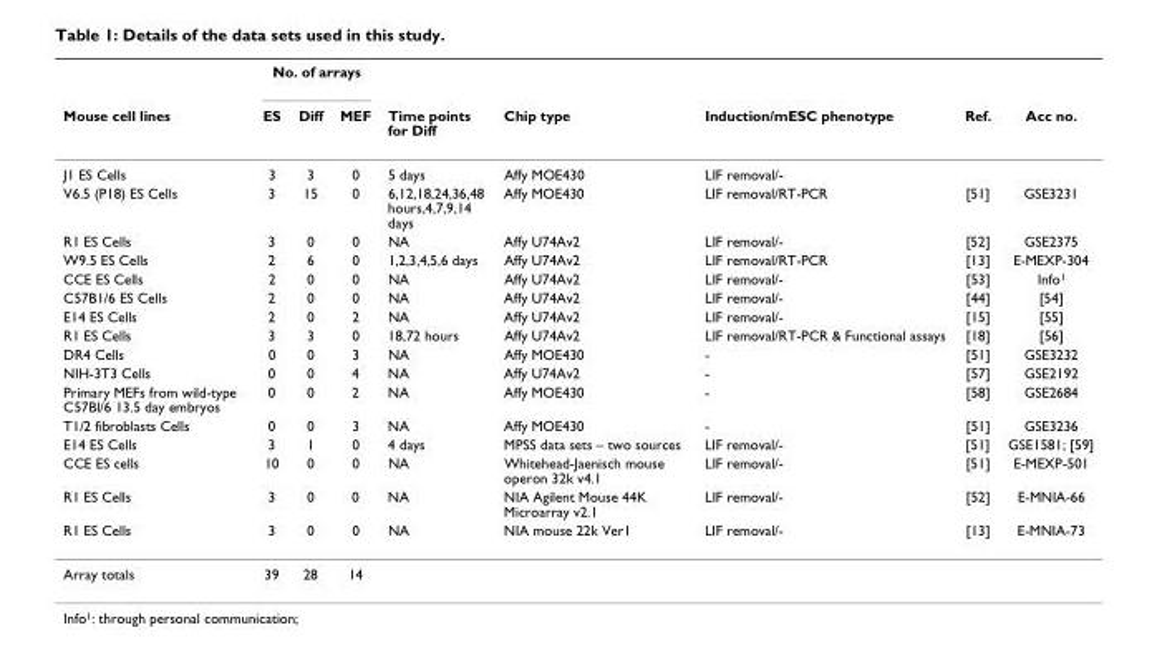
<table><thead><tr><td rowspan="2">Mouse cell lines</td><td colspan="3">No. of arrays</td><td rowspan="2">Time points for Diff</td><td rowspan="2">Chip type</td><td rowspan="2">Induction/mESC phenotype</td><td rowspan="2">Ref.</td><td rowspan="2">Acc no.</td></tr><tr><td>ES</td><td>Diff</td><td>MEF</td></tr></thead><tbody><tr><td>J1 ES Cells</td><td>3</td><td>3</td><td>0</td><td>5 days</td><td>Affy MOE430</td><td>LIF removal/-</td><td></td><td></td></tr><tr><td>V6.5 (P18) ES Cells</td><td>3</td><td>15</td><td>0</td><td>6,12,18,24,36,48 hours,4,7,9,14 days</td><td>Affy MOE430</td><td>LIF removal/RT-PCR</td><td>[51]</td><td>GSE3231</td></tr><tr><td>R1 ES Cells</td><td>3</td><td>0</td><td>0</td><td>NA</td><td>Affy U74Av2</td><td>LIF removal/-</td><td>[52]</td><td>GSE2375</td></tr><tr><td>W9.5 ES Cells</td><td>2</td><td>6</td><td>0</td><td>1,2,3,4,5,6 days</td><td>Affy U74Av2</td><td>LIF removal/RT-PCR</td><td>[13]</td><td>E-MEXP-304</td></tr><tr><td>CCE ES Cells</td><td>2</td><td>0</td><td>0</td><td>NA</td><td>Affy U74Av2</td><td>LIF removal/-</td><td>[53]</td><td>Info<sup>1</sup></td></tr><tr><td>C57B1/6 ES Cells</td><td>2</td><td>0</td><td>0</td><td>NA</td><td>Affy U74Av2</td><td>LIF removal/-</td><td>[44]</td><td>[54]</td></tr><tr><td>E14 ES Cells</td><td>2</td><td>0</td><td>2</td><td>NA</td><td>Affy U74Av2</td><td>LIF removal/-</td><td>[15]</td><td>[55]</td></tr><tr><td>R1 ES Cells</td><td>3</td><td>3</td><td>0</td><td>18,72 hours</td><td>Affy U74Av2</td><td>LIF removal/RT-PCR &amp; Functional assays</td><td>[18]</td><td>[56]</td></tr><tr><td>DR4 Cells</td><td>0</td><td>0</td><td>3</td><td>NA</td><td>Affy MOE430</td><td>-</td><td>[51]</td><td>GSE3232</td></tr><tr><td>NIH-3T3 Cells</td><td>0</td><td>0</td><td>4</td><td>NA</td><td>Affy U74Av2</td><td>-</td><td>[57]</td><td>GSE2192</td></tr><tr><td>Primary MEFs from wild-type C57Bl/6 13.5 day embryos</td><td>0</td><td>0</td><td>2</td><td>NA</td><td>Affy MOE430</td><td>-</td><td>[58]</td><td>GSE2684</td></tr><tr><td>T1/2 fibroblasts Cells</td><td>0</td><td>0</td><td>3</td><td>NA</td><td>Affy MOE430</td><td>-</td><td>[51]</td><td>GSE3236</td></tr><tr><td>E14 ES Cells</td><td>3</td><td>1</td><td>0</td><td>4 days</td><td>MPSS data sets – two sources</td><td>LIF removal/-</td><td>[51]</td><td>GSE1581; [59]</td></tr><tr><td>CCE ES cells</td><td>10</td><td>0</td><td>0</td><td>NA</td><td>Whitehead-Jaenisch mouse operon 32k v4.1</td><td>LIF removal/-</td><td>[51]</td><td>E-MEXP-501</td></tr><tr><td>R1 ES Cells</td><td>3</td><td>0</td><td>0</td><td>NA</td><td>NIA Agilent Mouse 44K Microarray v2.1</td><td>LIF removal/-</td><td>[52]</td><td>E-MNIA-66</td></tr><tr><td>R1 ES Cells</td><td>3</td><td>0</td><td>0</td><td>NA</td><td>NIA mouse 22k Ver1</td><td>LIF removal/-</td><td>[13]</td><td>E-MNIA-73</td></tr><tr><td>Array totals</td><td>39</td><td>28</td><td>14</td><td></td><td></td><td></td><td></td><td></td></tr></tbody></table>